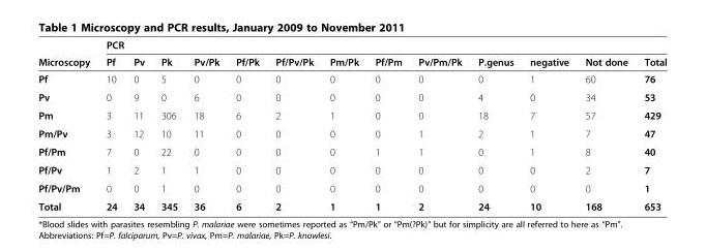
<table><thead><tr><td rowspan="2">Microscopy</td><td colspan="13">PCR</td></tr><tr><td>Pf</td><td>Pv</td><td>Pk</td><td>Pv/Pk</td><td>Pf/Pk</td><td>Pf/Pv/Pk</td><td>Pm/Pk</td><td>Pf/Pm</td><td>Pv/Pm/Pk</td><td>P.genus</td><td>negative</td><td>Not done</td><td>Total</td></tr></thead><tbody><tr><td>Pf</td><td>10</td><td>0</td><td>5</td><td>0</td><td>0</td><td>0</td><td>0</td><td>0</td><td>0</td><td>0</td><td>1</td><td>60</td><td>76</td></tr><tr><td>Pv</td><td>0</td><td>9</td><td>0</td><td>6</td><td>0</td><td>0</td><td>0</td><td>0</td><td>0</td><td>4</td><td>0</td><td>34</td><td>53</td></tr><tr><td>Pm</td><td>3</td><td>11</td><td>306</td><td>18</td><td>6</td><td>2</td><td>1</td><td>0</td><td>0</td><td>18</td><td>7</td><td>57</td><td>429</td></tr><tr><td>Pm/Pv</td><td>3</td><td>12</td><td>10</td><td>11</td><td>0</td><td>0</td><td>0</td><td>0</td><td>1</td><td>2</td><td>1</td><td>7</td><td>47</td></tr><tr><td>Pf/Pm</td><td>7</td><td>0</td><td>22</td><td>0</td><td>0</td><td>0</td><td>0</td><td>1</td><td>1</td><td>0</td><td>1</td><td>8</td><td>40</td></tr><tr><td>Pf/Pv</td><td>1</td><td>2</td><td>1</td><td>1</td><td>0</td><td>0</td><td>0</td><td>0</td><td>0</td><td>0</td><td>0</td><td>2</td><td>7</td></tr><tr><td>Pf/Pv/Pm</td><td>0</td><td>0</td><td>1</td><td>0</td><td>0</td><td>0</td><td>0</td><td>0</td><td>0</td><td>0</td><td>0</td><td>0</td><td>1</td></tr><tr><td>Total</td><td>24</td><td>34</td><td>345</td><td>36</td><td>6</td><td>2</td><td>1</td><td>1</td><td>2</td><td>24</td><td>10</td><td>168</td><td>653</td></tr></tbody></table>